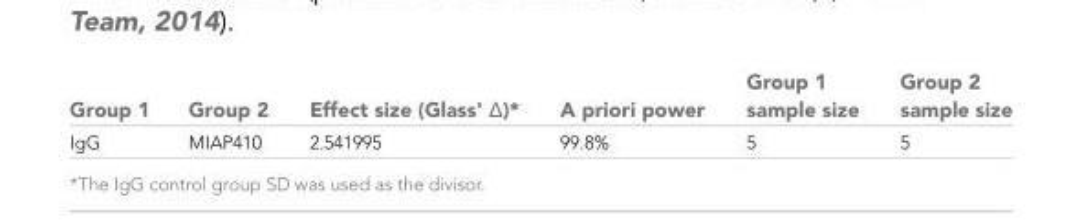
<table><thead><tr><td>Group 1</td><td>Group 2</td><td>Effect size (Glass&#x27; Δ)*</td><td>A priori power</td><td>Group 1 sample size</td><td>Group 2 sample size</td></tr></thead><tbody><tr><td>IgG</td><td>MIAP410</td><td>2.541995</td><td>99.8%</td><td>5</td><td>5</td></tr></tbody></table>